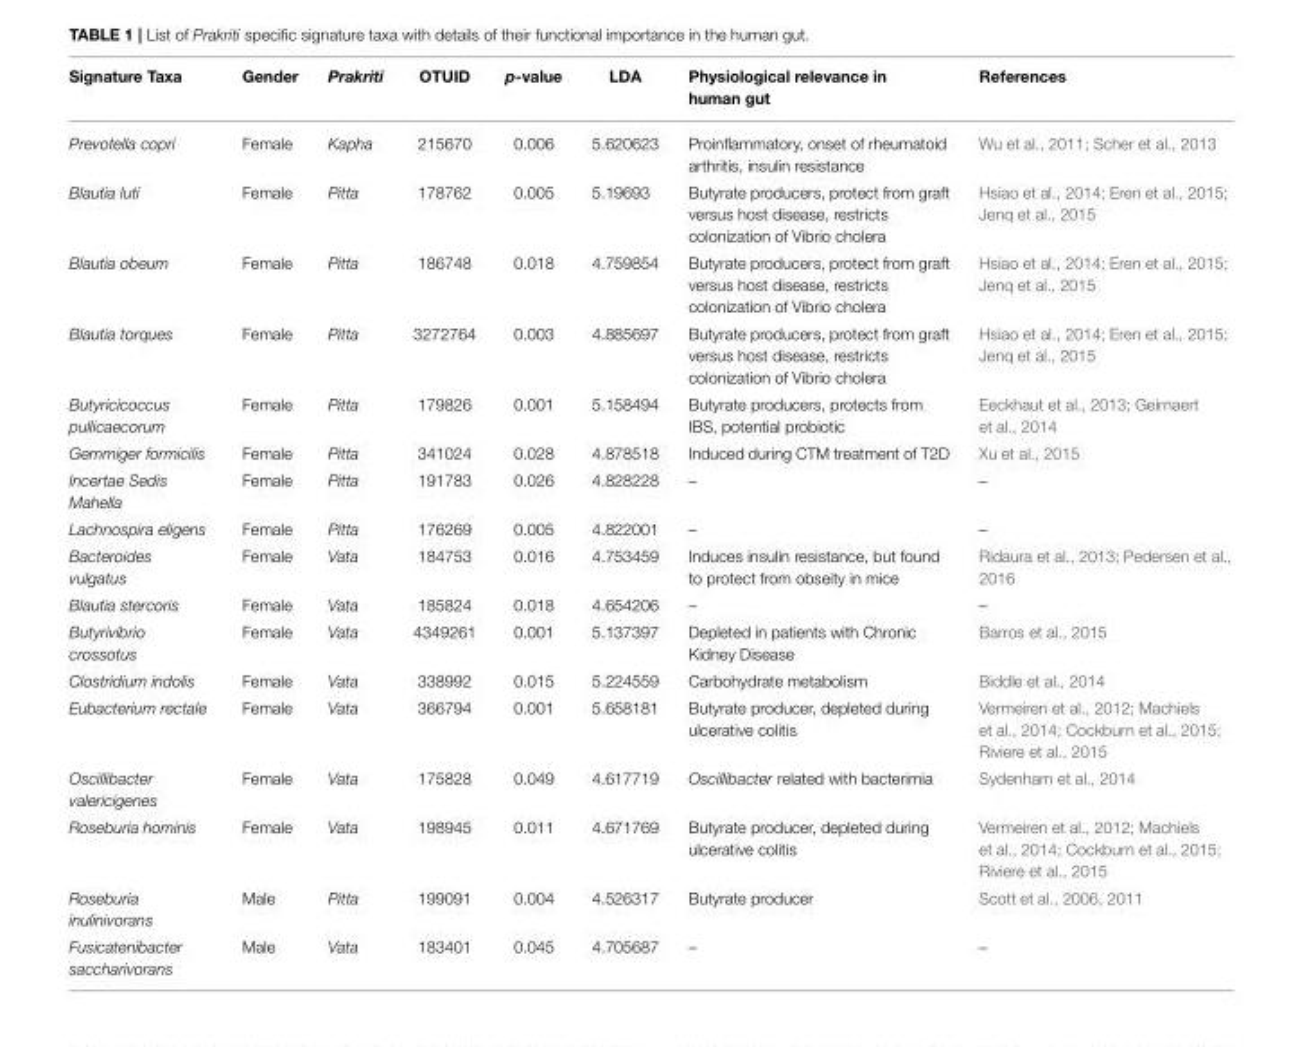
<table><thead><tr><td>Signature Taxa</td><td>Gender</td><td>Prakriti</td><td>OTUID</td><td>p-value</td><td>LDA</td><td>Physiological relevance in human gut</td><td>References</td></tr></thead><tbody><tr><td>Prevotella copri</td><td>Female</td><td>Kapha</td><td>215670</td><td>0.006</td><td>5.620623</td><td>Proinflammatory, onset of rheumatoid arthritis, insulin resistance</td><td>Wu et al., 2011; Scher et al., 2013</td></tr><tr><td>Blautia luti</td><td>Female</td><td>Pitta</td><td>178762</td><td>0.005</td><td>5.19693</td><td>Butyrate producers, protect from graft versus host disease, restricts colonization of Vibrio cholera</td><td>Hsiao et al., 2014; Eren et al., 2015; Jenq et al., 2015</td></tr><tr><td>Blautia obeum</td><td>Female</td><td>Pitta</td><td>186748</td><td>0.018</td><td>4.759854</td><td>Butyrate producers, protect from graft versus host disease, restricts colonization of Vibrio cholera</td><td>Hsiao et al., 2014; Eren et al., 2015; Jenq et al., 2015</td></tr><tr><td>Blautia torques</td><td>Female</td><td>Pitta</td><td>3272764</td><td>0.003</td><td>4.885697</td><td>Butyrate producers, protect from graft versus host disease, restricts colonization of Vibrio cholera</td><td>Hsiao et al., 2014; Eren et al., 2015; Jenq et al., 2015</td></tr><tr><td>Butyricicoccus pullicaecorum</td><td>Female</td><td>Pitta</td><td>179826</td><td>0.001</td><td>5.158494</td><td>Butyrate producers, protects from IBS, potential probiotic</td><td>Eeckhaut et al., 2013; Geirnaert et al., 2014</td></tr><tr><td>Gemmiger formicilis</td><td>Female</td><td>Pitta</td><td>341024</td><td>0.028</td><td>4.878518</td><td>Induced during CTM treatment of T2D</td><td>Xu et al., 2015</td></tr><tr><td>Incertae Sedis Mahella</td><td>Female</td><td>Pitta</td><td>191783</td><td>0.026</td><td>4.828228</td><td>–</td><td>–</td></tr><tr><td>Lachnospira eligens</td><td>Female</td><td>Pitta</td><td>176269</td><td>0.005</td><td>4.822001</td><td>–</td><td>–</td></tr><tr><td>Bacteroides vulgatus</td><td>Female</td><td>Vata</td><td>184753</td><td>0.016</td><td>4.753459</td><td>Induces insulin resistance, but found to protect from obseity in mice</td><td>Ridaura et al., 2013; Pedersen et al., 2016</td></tr><tr><td>Blautia stercoris</td><td>Female</td><td>Vata</td><td>185824</td><td>0.018</td><td>4.654206</td><td>–</td><td>–</td></tr><tr><td>Butyrivibrio crossotus</td><td>Female</td><td>Vata</td><td>4349261</td><td>0.001</td><td>5.137397</td><td>Depleted in patients with Chronic Kidney Disease</td><td>Barros et al., 2015</td></tr><tr><td>Clostridium indolis</td><td>Female</td><td>Vata</td><td>338992</td><td>0.015</td><td>5.224559</td><td>Carbohydrate metabolism</td><td>Biddle et al., 2014</td></tr><tr><td>Eubacterium rectale</td><td>Female</td><td>Vata</td><td>366794</td><td>0.001</td><td>5.658181</td><td>Butyrate producer, depleted during ulcerative colitis</td><td>Vermeiren et al., 2012; Machiels et al., 2014; Cockburn et al., 2015; Riviere et al., 2015</td></tr><tr><td>Oscillibacter valericigenes</td><td>Female</td><td>Vata</td><td>175828</td><td>0.049</td><td>4.617719</td><td>Oscillibacter related with bacterimia</td><td>Sydenham et al., 2014</td></tr><tr><td>Roseburia hominis</td><td>Female</td><td>Vata</td><td>198945</td><td>0.011</td><td>4.671769</td><td>Butyrate producer, depleted during ulcerative colitis</td><td>Vermeiren et al., 2012; Machiels et al., 2014; Cockburn et al., 2015; Riviere et al., 2015</td></tr><tr><td>Roseburia inulinivorans</td><td>Male</td><td>Pitta</td><td>199091</td><td>0.004</td><td>4.526317</td><td>Butyrate producer</td><td>Scott et al., 2006, 2011</td></tr><tr><td>Fusicatenibacter saccharivorans</td><td>Male</td><td>Vata</td><td>183401</td><td>0.045</td><td>4.705687</td><td>–</td><td>–</td></tr></tbody></table>